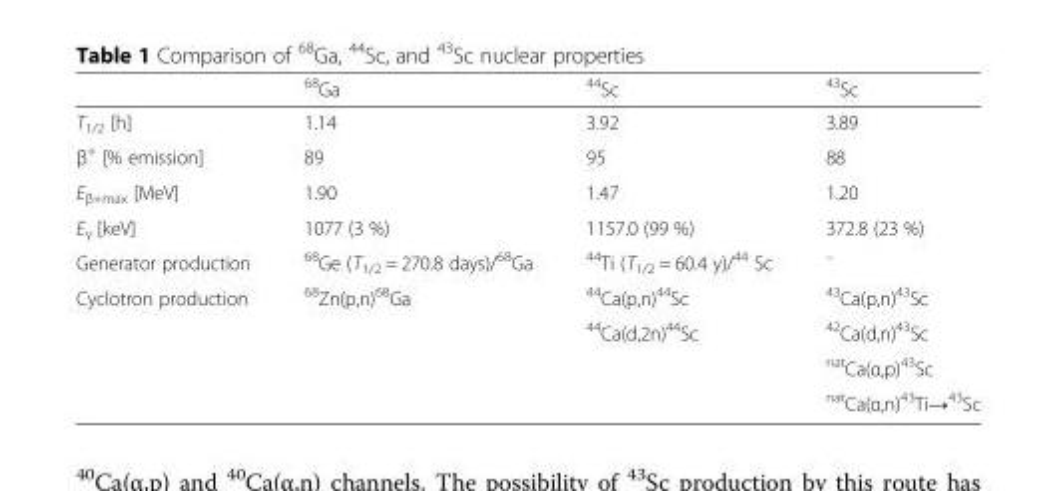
<table><thead><tr><td></td><td><sup>68</sup>Ga</td><td><sup>44</sup>Sc</td><td><sup>43</sup>Sc</td></tr></thead><tbody><tr><td>T<sub>1/2</sub> [h]</td><td>1.14</td><td>3.92</td><td>3.89</td></tr><tr><td>β<sup>+</sup> [% emission]</td><td>89</td><td>95</td><td>88</td></tr><tr><td>E<sub>β+max</sub> [MeV]</td><td>1.90</td><td>1.47</td><td>1.20</td></tr><tr><td>E<sub>γ</sub> [keV]</td><td>1077 (3 %)</td><td>1157.0 (99 %)</td><td>372.8 (23 %)</td></tr><tr><td>Generator production</td><td><sup>68</sup>Ge (T<sub>1/2</sub> = 270.8 days)/<sup>68</sup>Ga</td><td><sup>44</sup>Ti (T<sub>1/2</sub> = 60.4 y)/<sup>44</sup> Sc</td><td><sup>–</sup></td></tr><tr><td rowspan="4">Cyclotron production</td><td rowspan="4"><sup>68</sup>Zn(p,n)<sup>68</sup>Ga</td><td><sup>44</sup>Ca(p,n)<sup>44</sup>Sc</td><td><sup>43</sup>Ca(p,n)<sup>43</sup>Sc</td></tr><tr><td rowspan="3"><sup>44</sup>Ca(d,2n)<sup>44</sup>Sc</td><td><sup>42</sup>Ca(d,n)<sup>43</sup>Sc</td></tr><tr><td><sup>nat</sup>Ca(α,p)<sup>43</sup>Sc</td></tr><tr><td><sup>nat</sup>Ca(α,n)<sup>43</sup>Ti→<sup>43</sup>Sc</td></tr></tbody></table>